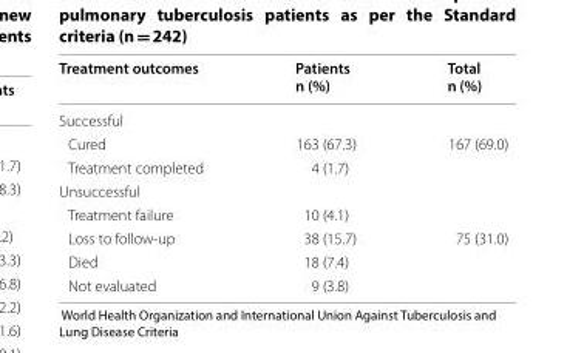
<table><thead><tr><td>Treatment outcomes</td><td>Patients n (%)</td><td>Total n (%)</td></tr></thead><tbody><tr><td colspan="3">Successful</td></tr><tr><td>Cured</td><td>163 (67.3)</td><td>167 (69.0)</td></tr><tr><td>Treatment completed</td><td>4 (1.7)</td><td></td></tr><tr><td colspan="3">Unsuccessful</td></tr><tr><td>Treatment failure</td><td>10 (4.1)</td><td></td></tr><tr><td>Loss to follow-up</td><td>38 (15.7)</td><td>75 (31.0)</td></tr><tr><td>Died</td><td>18 (7.4)</td><td></td></tr><tr><td>Not evaluated</td><td>9 (3.8)</td><td></td></tr></tbody></table>